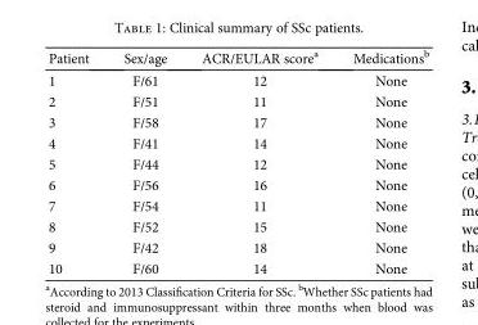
<table><thead><tr><td>Patient</td><td>Sex/age</td><td>ACR/EULAR score<sup>a</sup></td><td>Medications<sup>b</sup></td></tr></thead><tbody><tr><td>1</td><td>F/61</td><td>12</td><td>None</td></tr><tr><td>2</td><td>F/51</td><td>11</td><td>None</td></tr><tr><td>3</td><td>F/58</td><td>17</td><td>None</td></tr><tr><td>4</td><td>F/41</td><td>14</td><td>None</td></tr><tr><td>5</td><td>F/44</td><td>12</td><td>None</td></tr><tr><td>6</td><td>F/56</td><td>16</td><td>None</td></tr><tr><td>7</td><td>F/54</td><td>11</td><td>None</td></tr><tr><td>8</td><td>F/52</td><td>15</td><td>None</td></tr><tr><td>9</td><td>F/42</td><td>18</td><td>None</td></tr><tr><td>10</td><td>F/60</td><td>14</td><td>None</td></tr></tbody></table>